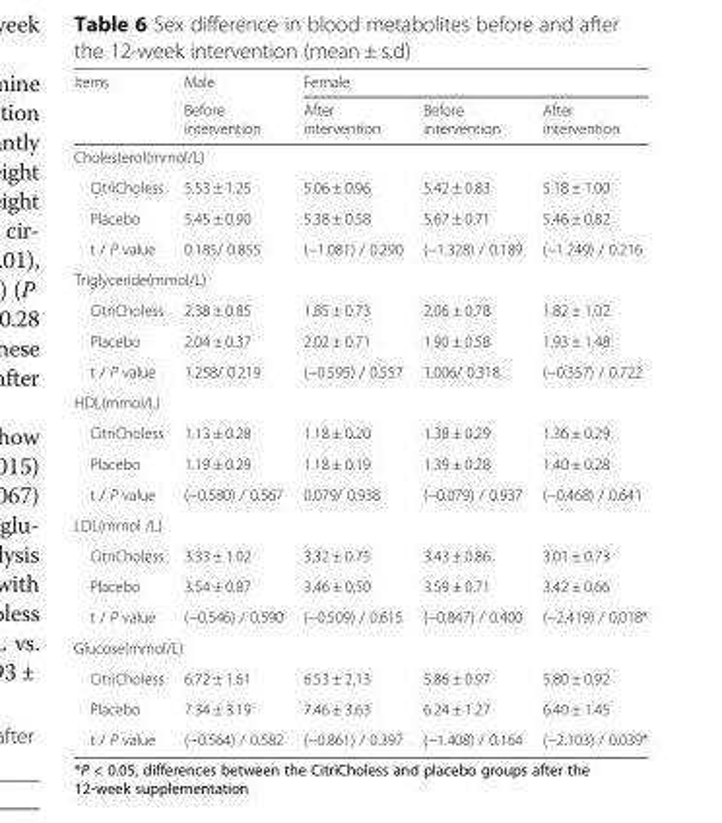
<table><thead><tr><td rowspan="2">Items</td><td rowspan="2">Male Before intervention</td><td colspan="3">Female</td></tr><tr><td>After intervention</td><td>Before intervention</td><td>After intervention</td></tr></thead><tbody><tr><td colspan="5">Cholesterol(mmol/L)</td></tr><tr><td>CitriCholess</td><td>5.53 ± 1.25</td><td>5.06 ± 0.96</td><td>5.42 ± 0.83</td><td>5.18 ± 1.00</td></tr><tr><td>Placebo</td><td>5.45 ± 0.90</td><td>5.38 ± 0.58</td><td>5.67 ± 0.71</td><td>5.46 ± 0.82</td></tr><tr><td>t / P value</td><td>0.185/ 0.855</td><td>(−1.081) / 0.290</td><td>(−1.328) / 0.189</td><td>(−1.249) / 0.216</td></tr><tr><td colspan="5">Triglyceride(mmol/L)</td></tr><tr><td>CitriCholess</td><td>2.38 ± 0.85</td><td>1.85 ± 0.73</td><td>2.06 ± 0.78</td><td>1.82 ± 1.02</td></tr><tr><td>Placebo</td><td>2.04 ± 0.37</td><td>2.02 ± 0.71</td><td>1.90 ± 0.58</td><td>1.93 ± 1.48</td></tr><tr><td>t / P value</td><td>1.258/ 0.219</td><td>(−0.595) / 0.557</td><td>1.006/ 0.318</td><td>(−0.357) / 0.722</td></tr><tr><td colspan="5">HDL(mmol/L)</td></tr><tr><td>CitriCholess</td><td>1.13 ± 0.28</td><td>1.18 ± 0.20</td><td>1.38 ± 0.29</td><td>1.36 ± 0.29</td></tr><tr><td>Placebo</td><td>1.19 ± 0.29</td><td>1.18 ± 0.19</td><td>1.39 ± 0.28</td><td>1.40 ± 0.28</td></tr><tr><td>t / P value</td><td>(−0.580) / 0.567</td><td>0.079/ 0.938</td><td>(−0.079) / 0.937</td><td>(−0.468) / 0.641</td></tr><tr><td colspan="5">LDL(mmol /L)</td></tr><tr><td>CitriCholess</td><td>3.33 ± 1.02</td><td>3.32 ± 0.75</td><td>3.43 ± 0.86</td><td>3.01 ± 0.73</td></tr><tr><td>Placebo</td><td>3.54 ± 0.87</td><td>3.46 ± 0.50</td><td>3.59 ± 0.71</td><td>3.42 ± 0.66</td></tr><tr><td>t / P value</td><td>(−0.546) / 0.590</td><td>(−0.509) / 0.615</td><td>(−0.847) / 0.400</td><td>(−2.419) / 0.018*</td></tr><tr><td colspan="5">Glucose(mmol/L)</td></tr><tr><td>CitriCholess</td><td>6.72 ± 1.61</td><td>6.53 ± 2.13</td><td>5.86 ± 0.97</td><td>5.80 ± 0.92</td></tr><tr><td>Placebo</td><td>7.34 ± 3.19</td><td>7.46 ± 3.63</td><td>6.24 ± 1.27</td><td>6.40 ± 1.45</td></tr><tr><td>t / P value</td><td>(−0.564) / 0.582</td><td>(−0.861) / 0.397</td><td>(−1.408) / 0.164</td><td>(−2.103) / 0.039*</td></tr></tbody></table>